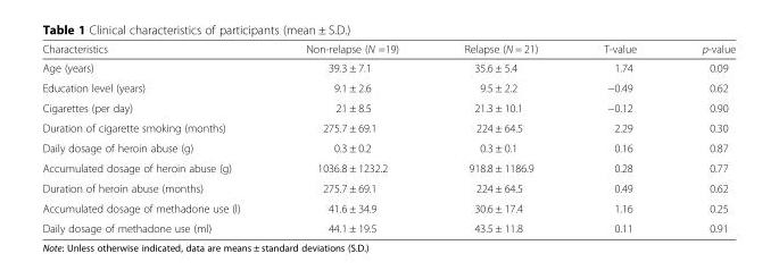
<table><thead><tr><td>Characteristics</td><td>Non-relapse (N =19)</td><td>Relapse (N = 21)</td><td>T-value</td><td>p-value</td></tr></thead><tbody><tr><td>Age (years)</td><td>39.3 ± 7.1</td><td>35.6 ± 5.4</td><td>1.74</td><td>0.09</td></tr><tr><td>Education level (years)</td><td>9.1 ± 2.6</td><td>9.5 ± 2.2</td><td>−0.49</td><td>0.62</td></tr><tr><td>Cigarettes (per day)</td><td>21 ± 8.5</td><td>21.3 ± 10.1</td><td>−0.12</td><td>0.90</td></tr><tr><td>Duration of cigarette smoking (months)</td><td>275.7 ± 69.1</td><td>224 ± 64.5</td><td>2.29</td><td>0.30</td></tr><tr><td>Daily dosage of heroin abuse (g)</td><td>0.3 ± 0.2</td><td>0.3 ± 0.1</td><td>0.16</td><td>0.87</td></tr><tr><td>Accumulated dosage of heroin abuse (g)</td><td>1036.8 ± 1232.2</td><td>918.8 ± 1186.9</td><td>0.28</td><td>0.77</td></tr><tr><td>Duration of heroin abuse (months)</td><td>275.7 ± 69.1</td><td>224 ± 64.5</td><td>0.49</td><td>0.62</td></tr><tr><td>Accumulated dosage of methadone use (l)</td><td>41.6 ± 34.9</td><td>30.6 ± 17.4</td><td>1.16</td><td>0.25</td></tr><tr><td>Daily dosage of methadone use (ml)</td><td>44.1 ± 19.5</td><td>43.5 ± 11.8</td><td>0.11</td><td>0.91</td></tr></tbody></table>